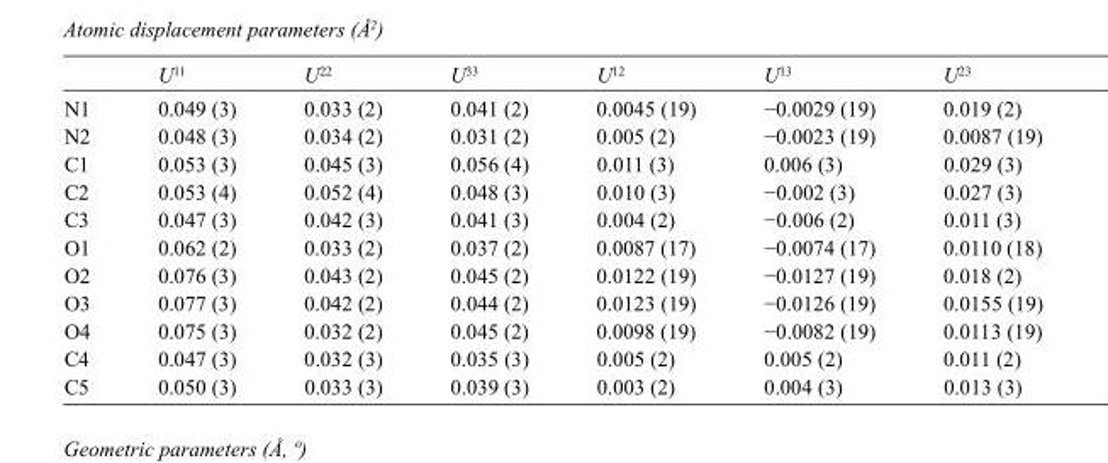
<table><thead><tr><td></td><td>U<sup>11</sup></td><td>U<sup>22</sup></td><td>U<sup>33</sup></td><td>U<sup>12</sup></td><td>U<sup>13</sup></td><td>U<sup>23</sup></td></tr></thead><tbody><tr><td>N1</td><td>0.049 (3)</td><td>0.033 (2)</td><td>0.041 (2)</td><td>0.0045 (19)</td><td>−0.0029 (19)</td><td>0.019 (2)</td></tr><tr><td>N2</td><td>0.048 (3)</td><td>0.034 (2)</td><td>0.031 (2)</td><td>0.005 (2)</td><td>−0.0023 (19)</td><td>0.0087 (19)</td></tr><tr><td>C1</td><td>0.053 (3)</td><td>0.045 (3)</td><td>0.056 (4)</td><td>0.011 (3)</td><td>0.006 (3)</td><td>0.029 (3)</td></tr><tr><td>C2</td><td>0.053 (4)</td><td>0.052 (4)</td><td>0.048 (3)</td><td>0.010 (3)</td><td>−0.002 (3)</td><td>0.027 (3)</td></tr><tr><td>C3</td><td>0.047 (3)</td><td>0.042 (3)</td><td>0.041 (3)</td><td>0.004 (2)</td><td>−0.006 (2)</td><td>0.011 (3)</td></tr><tr><td>O1</td><td>0.062 (2)</td><td>0.033 (2)</td><td>0.037 (2)</td><td>0.0087 (17)</td><td>−0.0074 (17)</td><td>0.0110 (18)</td></tr><tr><td>O2</td><td>0.076 (3)</td><td>0.043 (2)</td><td>0.045 (2)</td><td>0.0122 (19)</td><td>−0.0127 (19)</td><td>0.018 (2)</td></tr><tr><td>O3</td><td>0.077 (3)</td><td>0.042 (2)</td><td>0.044 (2)</td><td>0.0123 (19)</td><td>−0.0126 (19)</td><td>0.0155 (19)</td></tr><tr><td>O4</td><td>0.075 (3)</td><td>0.032 (2)</td><td>0.045 (2)</td><td>0.0098 (19)</td><td>−0.0082 (19)</td><td>0.0113 (19)</td></tr><tr><td>C4</td><td>0.047 (3)</td><td>0.032 (3)</td><td>0.035 (3)</td><td>0.005 (2)</td><td>0.005 (2)</td><td>0.011 (2)</td></tr><tr><td>C5</td><td>0.050 (3)</td><td>0.033 (3)</td><td>0.039 (3)</td><td>0.003 (2)</td><td>0.004 (3)</td><td>0.013 (3)</td></tr></tbody></table>